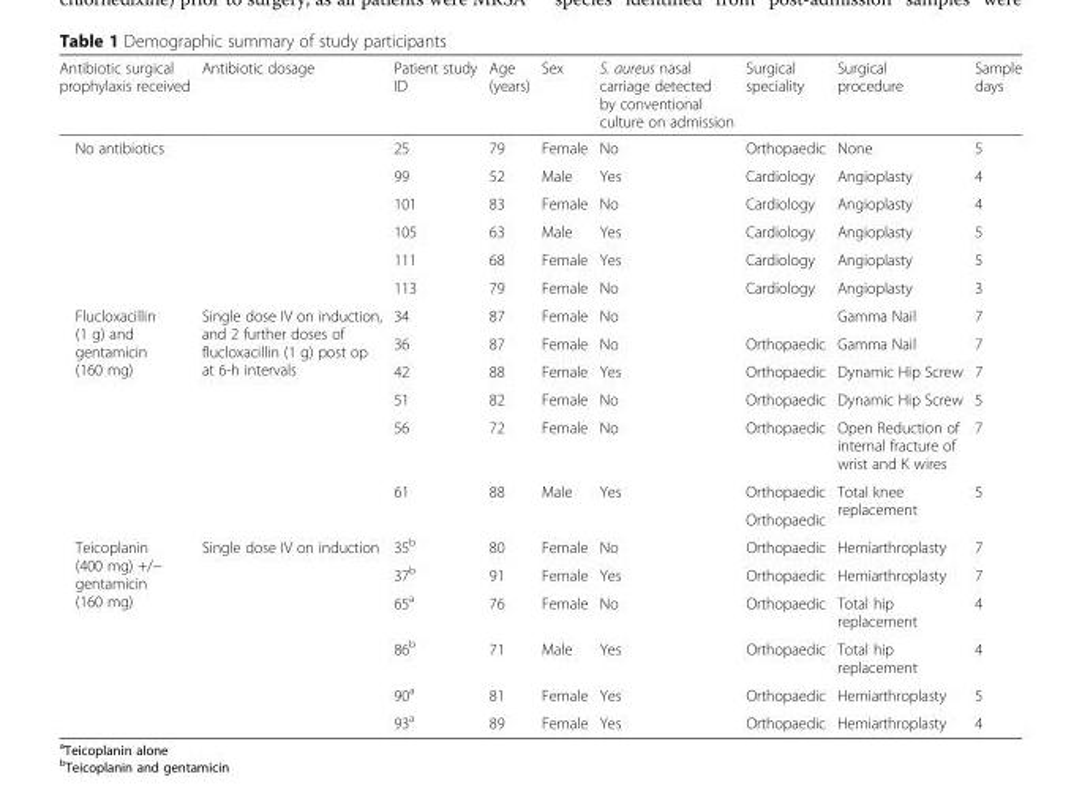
<table><thead><tr><td>Antibiotic surgical prophylaxis received</td><td>Antibiotic dosage</td><td>Patient study ID</td><td>Age (years)</td><td>Sex</td><td>S. aureus nasal carriage detected by conventional culture on admission</td><td>Surgical speciality</td><td>Surgical procedure</td><td>Sample days</td></tr></thead><tbody><tr><td rowspan="6">No antibiotics</td><td rowspan="6"></td><td>25</td><td>79</td><td>Female</td><td>No</td><td>Orthopaedic</td><td>None</td><td>5</td></tr><tr><td>99</td><td>52</td><td>Male</td><td>Yes</td><td>Cardiology</td><td>Angioplasty</td><td>4</td></tr><tr><td>101</td><td>83</td><td>Female</td><td>No</td><td>Cardiology</td><td>Angioplasty</td><td>4</td></tr><tr><td>105</td><td>63</td><td>Male</td><td>Yes</td><td>Cardiology</td><td>Angioplasty</td><td>5</td></tr><tr><td>111</td><td>68</td><td>Female</td><td>Yes</td><td>Cardiology</td><td>Angioplasty</td><td>5</td></tr><tr><td>113</td><td>79</td><td>Female</td><td>No</td><td>Cardiology</td><td>Angioplasty</td><td>3</td></tr><tr><td rowspan="7">Flucloxacillin (1 g) and gentamicin (160 mg)</td><td rowspan="7">Single dose IV on induction, and 2 further doses of flucloxacillin (1 g) post op at 6-h intervals</td><td>34</td><td>87</td><td>Female</td><td>No</td><td></td><td>Gamma Nail</td><td>7</td></tr><tr><td>36</td><td>87</td><td>Female</td><td>No</td><td>Orthopaedic</td><td>Gamma Nail</td><td>7</td></tr><tr><td>42</td><td>88</td><td>Female</td><td>Yes</td><td>Orthopaedic</td><td>Dynamic Hip Screw</td><td>7</td></tr><tr><td>51</td><td>82</td><td>Female</td><td>No</td><td>Orthopaedic</td><td>Dynamic Hip Screw</td><td>5</td></tr><tr><td>56</td><td>72</td><td>Female</td><td>No</td><td>Orthopaedic</td><td>Open Reduction of internal fracture of wrist and K wires</td><td>7</td></tr><tr><td rowspan="2">61</td><td rowspan="2">88</td><td rowspan="2">Male</td><td rowspan="2">Yes</td><td>Orthopaedic</td><td rowspan="2">Total knee replacement</td><td rowspan="2">5</td></tr><tr><td>Orthopaedic</td></tr><tr><td rowspan="6">Teicoplanin (400 mg) +/− gentamicin (160 mg)</td><td rowspan="6">Single dose IV on induction</td><td>35<sup>b</sup></td><td>80</td><td>Female</td><td>No</td><td>Orthopaedic</td><td>Hemiarthroplasty</td><td>7</td></tr><tr><td>37<sup>b</sup></td><td>91</td><td>Female</td><td>Yes</td><td>Orthopaedic</td><td>Hemiarthroplasty</td><td>7</td></tr><tr><td>65<sup>a</sup></td><td>76</td><td>Female</td><td>No</td><td>Orthopaedic</td><td>Total hip replacement</td><td>4</td></tr><tr><td>86<sup>b</sup></td><td>71</td><td>Male</td><td>Yes</td><td>Orthopaedic</td><td>Total hip replacement</td><td>4</td></tr><tr><td>90<sup>a</sup></td><td>81</td><td>Female</td><td>Yes</td><td>Orthopaedic</td><td>Hemiarthroplasty</td><td>5</td></tr><tr><td>93<sup>a</sup></td><td>89</td><td>Female</td><td>Yes</td><td>Orthopaedic</td><td>Hemiarthroplasty</td><td>4</td></tr></tbody></table>